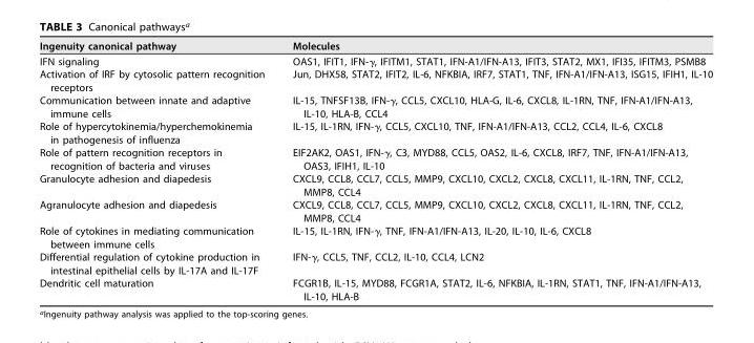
<table><thead><tr><td>Ingenuity canonical pathway</td><td>Molecules</td></tr></thead><tbody><tr><td>IFN signaling</td><td>OAS1, IFIT1, IFN-γ, IFITM1, STAT1, IFN-A1/IFN-A13, IFIT3, STAT2, MX1, IFI35, IFITM3, PSMB8</td></tr><tr><td>Activation of IRF by cytosolic pattern recognition receptors</td><td>Jun, DHX58, STAT2, IFIT2, IL-6, NFKBIA, IRF7, STAT1, TNF, IFN-A1/IFN-A13, ISG15, IFIH1, IL-10</td></tr><tr><td>Communication between innate and adaptive immune cells</td><td>IL-15, TNFSF13B, IFN-γ, CCL5, CXCL10, HLA-G, IL-6, CXCL8, IL-1RN, TNF, IFN-A1/IFN-A13, IL-10, HLA-B, CCL4</td></tr><tr><td>Role of hypercytokinemia/hyperchemokinemia in pathogenesis of influenza</td><td>IL-15, IL-1RN, IFN-γ, CCL5, CXCL10, TNF, IFN-A1/IFN-A13, CCL2, CCL4, IL-6, CXCL8</td></tr><tr><td>Role of pattern recognition receptors in recognition of bacteria and viruses</td><td>EIF2AK2, OAS1, IFN-γ, C3, MYD88, CCL5, OAS2, IL-6, CXCL8, IRF7, TNF, IFN-A1/IFN-A13, OAS3, IFIH1, IL-10</td></tr><tr><td>Granulocyte adhesion and diapedesis</td><td>CXCL9, CCL8, CCL7, CCL5, MMP9, CXCL10, CXCL2, CXCL8, CXCL11, IL-1RN, TNF, CCL2, MMP8, CCL4</td></tr><tr><td>Agranulocyte adhesion and diapedesis</td><td>CXCL9, CCL8, CCL7, CCL5, MMP9, CXCL10, CXCL2, CXCL8, CXCL11, IL-1RN, TNF, CCL2, MMP8, CCL4</td></tr><tr><td>Role of cytokines in mediating communication between immune cells</td><td>IL-15, IL-1RN, IFN-γ, TNF, IFN-A1/IFN-A13, IL-20, IL-10, IL-6, CXCL8</td></tr><tr><td>Differential regulation of cytokine production in intestinal epithelial cells by IL-17A and IL-17F</td><td>IFN-γ, CCL5, TNF, CCL2, IL-10, CCL4, LCN2</td></tr><tr><td>Dendritic cell maturation</td><td>FCGR1B, IL-15, MYD88, FCGR1A, STAT2, IL-6, NFKBIA, IL-1RN, STAT1, TNF, IFN-A1/IFN-A13, IL-10, HLA-B</td></tr></tbody></table>